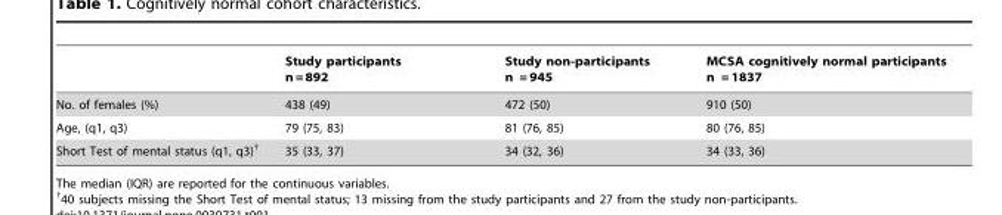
<table><thead><tr><td></td><td>Study participants n = 892</td><td>Study non-participants n = 945</td><td>MCSA cognitively normal participants n = 1837</td></tr></thead><tbody><tr><td>No. of females (%)</td><td>438 (49)</td><td>472 (50)</td><td>910 (50)</td></tr><tr><td>Age, (q1, q3)</td><td>79 (75, 83)</td><td>81 (76, 85)</td><td>80 (76, 85)</td></tr><tr><td>Short Test of mental status (q1, q3)†</td><td>35 (33, 37)</td><td>34 (32, 36)</td><td>34 (33, 36)</td></tr></tbody></table>